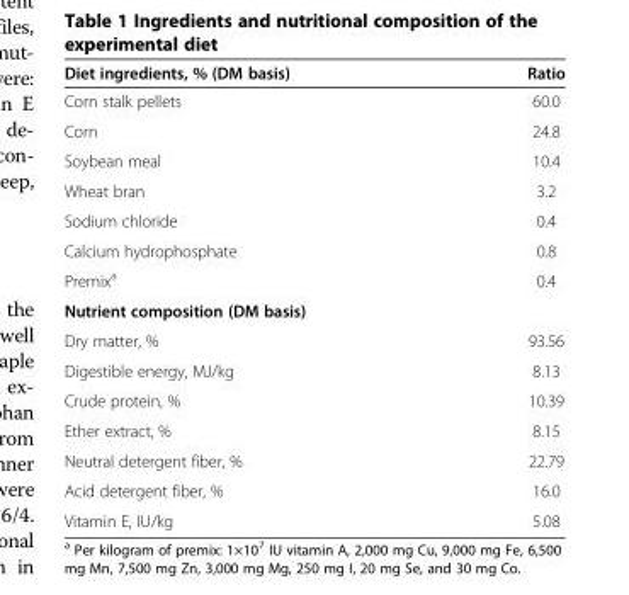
<table><thead><tr><td>Diet ingredients, % (DM basis)</td><td>Ratio</td></tr></thead><tbody><tr><td>Corn stalk pellets</td><td>60.0</td></tr><tr><td>Corn</td><td>24.8</td></tr><tr><td>Soybean meal</td><td>10.4</td></tr><tr><td>Wheat bran</td><td>3.2</td></tr><tr><td>Sodium chloride</td><td>0.4</td></tr><tr><td>Calcium hydrophosphate</td><td>0.8</td></tr><tr><td>Premix<sup>a</sup></td><td>0.4</td></tr><tr><td colspan="2">Nutrient composition (DM basis)</td></tr><tr><td>Dry matter, %</td><td>93.56</td></tr><tr><td>Digestible energy, MJ/kg</td><td>8.13</td></tr><tr><td>Crude protein, %</td><td>10.39</td></tr><tr><td>Ether extract, %</td><td>8.15</td></tr><tr><td>Neutral detergent fiber, %</td><td>22.79</td></tr><tr><td>Acid detergent fiber, %</td><td>16.0</td></tr><tr><td>Vitamin E, IU/kg</td><td>5.08</td></tr></tbody></table>